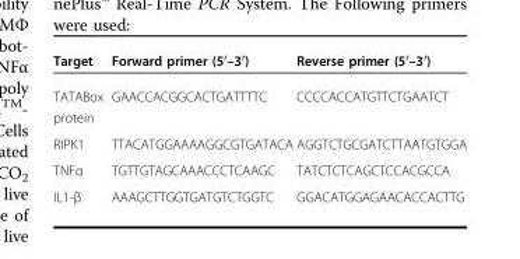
<table><thead><tr><td>Target</td><td>Forward primer (5′–3′)</td><td>Reverse primer (5′–3′)</td></tr></thead><tbody><tr><td>TATABox protein</td><td>GAACCACGGCACTGATTTTC</td><td>CCCCACCATGTTCTGAATCT</td></tr><tr><td>RIPK1</td><td>TTACATGGAAAAGGCGTGATACA</td><td>AGGTCTGCGATCTTAATGTGGA</td></tr><tr><td>TNFα</td><td>TGTTGTAGCAAACCCTCAAGC</td><td>TATCTCTCAGCTCCACGCCA</td></tr><tr><td>IL1-β</td><td>AAAGCTTGGTGATGTCTGGTC</td><td>GGACATGGAGAACACCACTTG</td></tr></tbody></table>